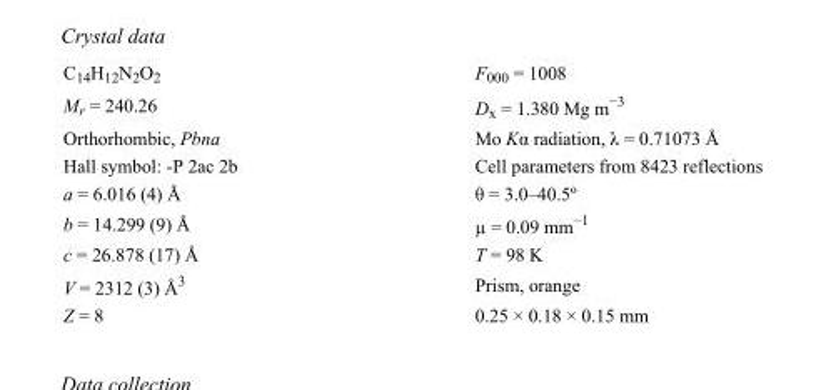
<table><tbody><tr><td>C<sub>14</sub>H<sub>12</sub>N<sub>2</sub>O<sub>2</sub></td><td>F000 = 1008</td></tr><tr><td>M<sub>r</sub> = 240.26</td><td>D<sub>x</sub> = 1.380 Mg m<sup>−3</sup></td></tr><tr><td>Orthorhombic, Pbna</td><td>Mo Kα radiation, λ = 0.71073 Å</td></tr><tr><td>Hall symbol: -P 2ac 2b</td><td>Cell parameters from 8423 reflections</td></tr><tr><td>a = 6.016 (4) Å</td><td>θ = 3.0–40.5º</td></tr><tr><td>b = 14.299 (9) Å</td><td>µ = 0.09 mm<sup>−1</sup></td></tr><tr><td>c = 26.878 (17) Å</td><td>T = 98 K</td></tr><tr><td>V = 2312 (3) Å<sup>3</sup></td><td>Prism, orange</td></tr><tr><td>Z = 8</td><td>0.25 × 0.18 × 0.15 mm</td></tr></tbody></table>